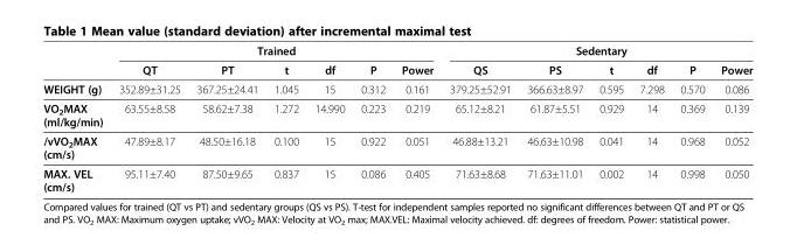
<table><thead><tr><td rowspan="2"></td><td colspan="6">Trained</td><td colspan="6">Sedentary</td></tr><tr><td>QT</td><td>PT</td><td>t</td><td>df</td><td>P</td><td>Power</td><td>QS</td><td>PS</td><td>t</td><td>df</td><td>P</td><td>Power</td></tr></thead><tbody><tr><td>WEIGHT (g)</td><td>352.89±31.25</td><td>367.25±24.41</td><td>1.045</td><td>15</td><td>0.312</td><td>0.161</td><td>379.25±52.91</td><td>366.63±8.97</td><td>0.595</td><td>7.298</td><td>0.570</td><td>0.086</td></tr><tr><td>VO<sub>2</sub>MAX (ml/kg/min)</td><td>63.55±8.58</td><td>58.62±7.38</td><td>1.272</td><td>14.990</td><td>0.223</td><td>0.219</td><td>65.12±8.21</td><td>61.87±5.51</td><td>0.929</td><td>14</td><td>0.369</td><td>0.139</td></tr><tr><td>/vVO<sub>2</sub>MAX (cm/s)</td><td>47.89±8.17</td><td>48.50±16.18</td><td>0.100</td><td>15</td><td>0.922</td><td>0.051</td><td>46.88±13.21</td><td>46.63±10.98</td><td>0.041</td><td>14</td><td>0.968</td><td>0.052</td></tr><tr><td>MAX. VEL (cm/s)</td><td>95.11±7.40</td><td>87.50±9.65</td><td>0.837</td><td>15</td><td>0.086</td><td>0.405</td><td>71.63±8.68</td><td>71.63±11.01</td><td>0.002</td><td>14</td><td>0.998</td><td>0.050</td></tr></tbody></table>